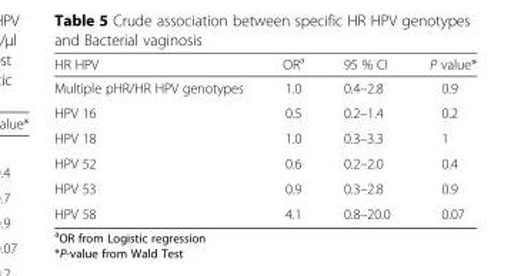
<table><thead><tr><td>HR HPV</td><td>OR<sup>a</sup></td><td>95 % CI</td><td>P value*</td></tr></thead><tbody><tr><td>Multiple pHR/HR HPV genotypes</td><td>1.0</td><td>0.4–2.8</td><td>0.9</td></tr><tr><td>HPV 16</td><td>0.5</td><td>0.2–1.4</td><td>0.2</td></tr><tr><td>HPV 18</td><td>1.0</td><td>0.3–3.3</td><td>1</td></tr><tr><td>HPV 52</td><td>0.6</td><td>0.2–2.0</td><td>0.4</td></tr><tr><td>HPV 53</td><td>0.9</td><td>0.3–2.8</td><td>0.9</td></tr><tr><td>HPV 58</td><td>4.1</td><td>0.8–20.0</td><td>0.07</td></tr></tbody></table>